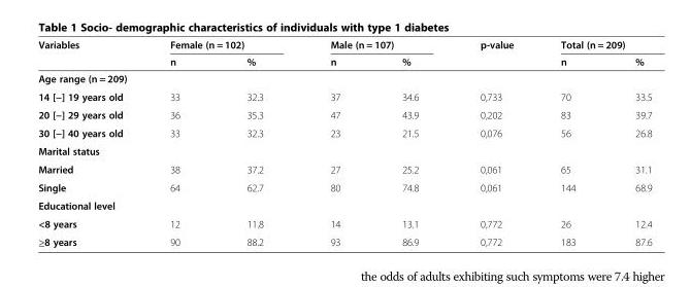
<table><thead><tr><td rowspan="2">Variables</td><td colspan="2">Female (n = 102)</td><td colspan="2">Male (n = 107)</td><td rowspan="2">p-value</td><td colspan="2">Total (n = 209)</td></tr><tr><td>n</td><td>%</td><td>n</td><td>%</td><td>n</td><td>%</td></tr></thead><tbody><tr><td colspan="8">Age range (n = 209)</td></tr><tr><td>14 [−] 19 years old</td><td>33</td><td>32.3</td><td>37</td><td>34.6</td><td>0,733</td><td>70</td><td>33.5</td></tr><tr><td>20 [−] 29 years old</td><td>36</td><td>35.3</td><td>47</td><td>43.9</td><td>0,202</td><td>83</td><td>39.7</td></tr><tr><td>30 [−] 40 years old</td><td>33</td><td>32.3</td><td>23</td><td>21.5</td><td>0,076</td><td>56</td><td>26.8</td></tr><tr><td colspan="8">Marital status</td></tr><tr><td>Married</td><td>38</td><td>37.2</td><td>27</td><td>25.2</td><td>0,061</td><td>65</td><td>31.1</td></tr><tr><td>Single</td><td>64</td><td>62.7</td><td>80</td><td>74.8</td><td>0,061</td><td>144</td><td>68.9</td></tr><tr><td colspan="8">Educational level</td></tr><tr><td>&lt;8 years</td><td>12</td><td>11.8</td><td>14</td><td>13.1</td><td>0,772</td><td>26</td><td>12.4</td></tr><tr><td>≥8 years</td><td>90</td><td>88.2</td><td>93</td><td>86.9</td><td>0,772</td><td>183</td><td>87.6</td></tr></tbody></table>